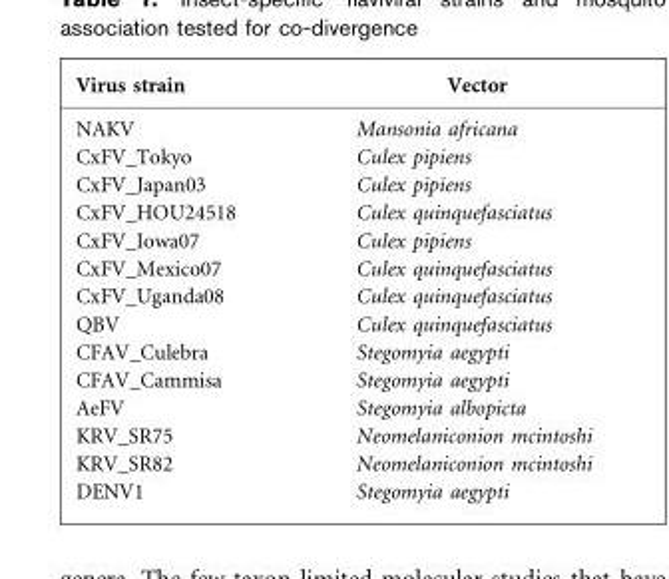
<table><thead><tr><td>Virus strain</td><td>Vector</td></tr></thead><tbody><tr><td>NAKV</td><td>Mansonia africana</td></tr><tr><td>CxFV_Tokyo</td><td>Culex pipiens</td></tr><tr><td>CxFV_Japan03</td><td>Culex pipiens</td></tr><tr><td>CxFV_HOU24518</td><td>Culex quinquefasciatus</td></tr><tr><td>CxFV_Iowa07</td><td>Culex pipiens</td></tr><tr><td>CxFV_Mexico07</td><td>Culex quinquefasciatus</td></tr><tr><td>CxFV_Uganda08</td><td>Culex quinquefasciatus</td></tr><tr><td>QBV</td><td>Culex quinquefasciatus</td></tr><tr><td>CFAV_Culebra</td><td>Stegomyia aegypti</td></tr><tr><td>CFAV_Cammisa</td><td>Stegomyia aegypti</td></tr><tr><td>AeFV</td><td>Stegomyia albopicta</td></tr><tr><td>KRV_SR75</td><td>Neomelaniconion mcintoshi</td></tr><tr><td>KRV_SR82</td><td>Neomelaniconion mcintoshi</td></tr><tr><td>DENV1</td><td>Stegomyia aegypti</td></tr></tbody></table>